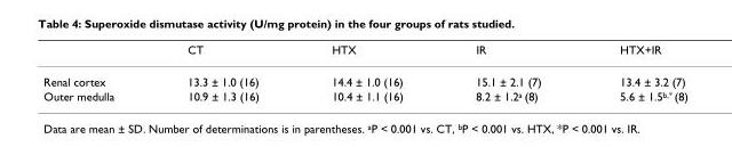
<table><thead><tr><td></td><td>CT</td><td>HTX</td><td>IR</td><td>HTX+IR</td></tr></thead><tbody><tr><td>Renal cortex</td><td>13.3 ± 1.0 (16)</td><td>14.4 ± 1.0 (16)</td><td>15.1 ± 2.1 (7)</td><td>13.4 ± 3.2 (7)</td></tr><tr><td>Outer medulla</td><td>10.9 ± 1.3 (16)</td><td>10.4 ± 1.1 (16)</td><td>8.2 ± 1.2a (8)</td><td>5.6 ± 1.5b,* (8)</td></tr></tbody></table>